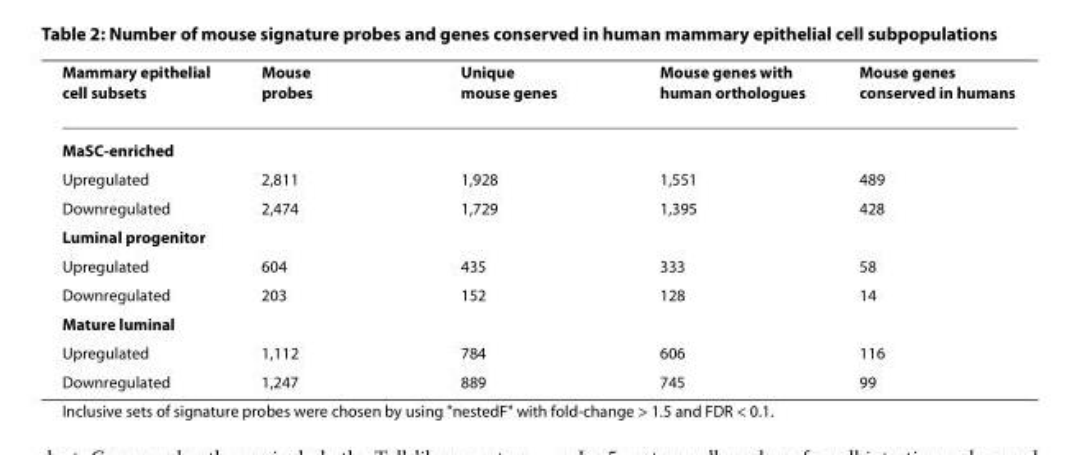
<table><thead><tr><td>Mammary epithelial cell subsets</td><td>Mouse probes</td><td>Unique mouse genes</td><td>Mouse genes with human orthologues</td><td>Mouse genes conserved in humans</td></tr></thead><tbody><tr><td colspan="5">MaSC-enriched</td></tr><tr><td>Upregulated</td><td>2,811</td><td>1,928</td><td>1,551</td><td>489</td></tr><tr><td>Downregulated</td><td>2,474</td><td>1,729</td><td>1,395</td><td>428</td></tr><tr><td colspan="5">Luminal progenitor</td></tr><tr><td>Upregulated</td><td>604</td><td>435</td><td>333</td><td>58</td></tr><tr><td>Downregulated</td><td>203</td><td>152</td><td>128</td><td>14</td></tr><tr><td colspan="5">Mature luminal</td></tr><tr><td>Upregulated</td><td>1,112</td><td>784</td><td>606</td><td>116</td></tr><tr><td>Downregulated</td><td>1,247</td><td>889</td><td>745</td><td>99</td></tr></tbody></table>